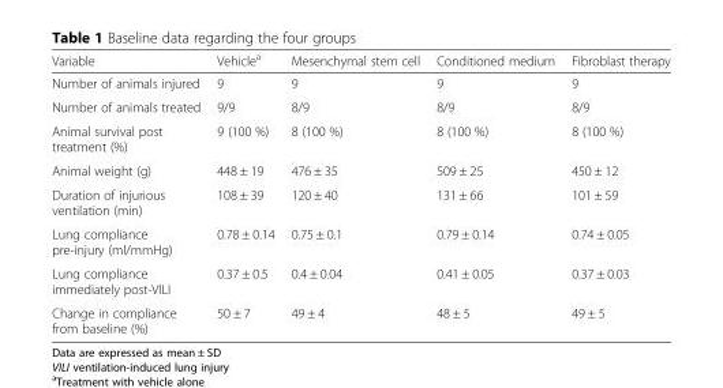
<table><thead><tr><td>Variable</td><td>Vehicle<sup>a</sup></td><td>Mesenchymal stem cell</td><td>Conditioned medium</td><td>Fibroblast therapy</td></tr></thead><tbody><tr><td>Number of animals injured</td><td>9</td><td>9</td><td>9</td><td>9</td></tr><tr><td>Number of animals treated</td><td>9/9</td><td>8/9</td><td>8/9</td><td>8/9</td></tr><tr><td>Animal survival post treatment (%)</td><td>9 (100 %)</td><td>8 (100 %)</td><td>8 (100 %)</td><td>8 (100 %)</td></tr><tr><td>Animal weight (g)</td><td>448 ± 19</td><td>476 ± 35</td><td>509 ± 25</td><td>450 ± 12</td></tr><tr><td>Duration of injurious ventilation (min)</td><td>108 ± 39</td><td>120 ± 40</td><td>131 ± 66</td><td>101 ± 59</td></tr><tr><td>Lung compliance pre-injury (ml/mmHg)</td><td>0.78 ± 0.14</td><td>0.75 ± 0.1</td><td>0.79 ± 0.14</td><td>0.74 ± 0.05</td></tr><tr><td>Lung compliance immediately post-VILI</td><td>0.37 ± 0.5</td><td>0.4 ± 0.04</td><td>0.41 ± 0.05</td><td>0.37 ± 0.03</td></tr><tr><td>Change in compliance from baseline (%)</td><td>50 ± 7</td><td>49 ± 4</td><td>48 ± 5</td><td>49 ± 5</td></tr></tbody></table>